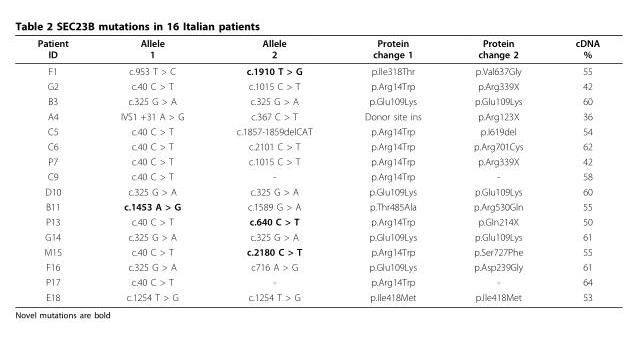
<table><thead><tr><td>Patient ID</td><td>Allele 1</td><td>Allele 2</td><td>Protein change 1</td><td>Protein change 2</td><td>cDNA %</td></tr></thead><tbody><tr><td>F1</td><td>c.953 T &gt; C</td><td>c.1910 T &gt; G</td><td>p.Ile318Thr</td><td>p.Val637Gly</td><td>55</td></tr><tr><td>G2</td><td>c.40 C &gt; T</td><td>c.1015 C &gt; T</td><td>p.Arg14Trp</td><td>p.Arg339X</td><td>42</td></tr><tr><td>B3</td><td>c.325 G &gt; A</td><td>c.325 G &gt; A</td><td>p.Glu109Lys</td><td>p.Glu109Lys</td><td>60</td></tr><tr><td>A4</td><td>IVS1 +31 A &gt; G</td><td>c.367 C &gt; T</td><td>Donor site ins</td><td>p.Arg123X</td><td>36</td></tr><tr><td>C5</td><td>c.40 C &gt; T</td><td>c.1857-1859delCAT</td><td>p.Arg14Trp</td><td>p.I619del</td><td>54</td></tr><tr><td>C6</td><td>c.40 C &gt; T</td><td>c.2101 C &gt; T</td><td>p.Arg14Trp</td><td>p.Arg701Cys</td><td>62</td></tr><tr><td>P7</td><td>c.40 C &gt; T</td><td>c.1015 C &gt; T</td><td>p.Arg14Trp</td><td>p.Arg339X</td><td>42</td></tr><tr><td>C9</td><td>c.40 C &gt; T</td><td>-</td><td>p.Arg14Trp</td><td>-</td><td>58</td></tr><tr><td>D10</td><td>c.325 G &gt; A</td><td>c.325 G &gt; A</td><td>p.Glu109Lys</td><td>p.Glu109Lys</td><td>60</td></tr><tr><td>B11</td><td>c.1453 A &gt; G</td><td>c.1589 G &gt; A</td><td>p.Thr485Ala</td><td>p.Arg530Gln</td><td>55</td></tr><tr><td>P13</td><td>c.40 C &gt; T</td><td>c.640 C &gt; T</td><td>p.Arg14Trp</td><td>p.Gln214X</td><td>50</td></tr><tr><td>G14</td><td>c.325 G &gt; A</td><td>c.325 G &gt; A</td><td>p.Glu109Lys</td><td>p.Glu109Lys</td><td>61</td></tr><tr><td>M15</td><td>c.40 C &gt; T</td><td>c.2180 C &gt; T</td><td>p.Arg14Trp</td><td>p.Ser727Phe</td><td>55</td></tr><tr><td>F16</td><td>c.325 G &gt; A</td><td>c716 A &gt; G</td><td>p.Glu109Lys</td><td>p.Asp239Gly</td><td>61</td></tr><tr><td>P17</td><td>c.40 C &gt; T</td><td>-</td><td>p.Arg14Trp</td><td>-</td><td>64</td></tr><tr><td>E18</td><td>c.1254 T &gt; G</td><td>c.1254 T &gt; G</td><td>p.Ile418Met</td><td>p.Ile418Met</td><td>53</td></tr></tbody></table>